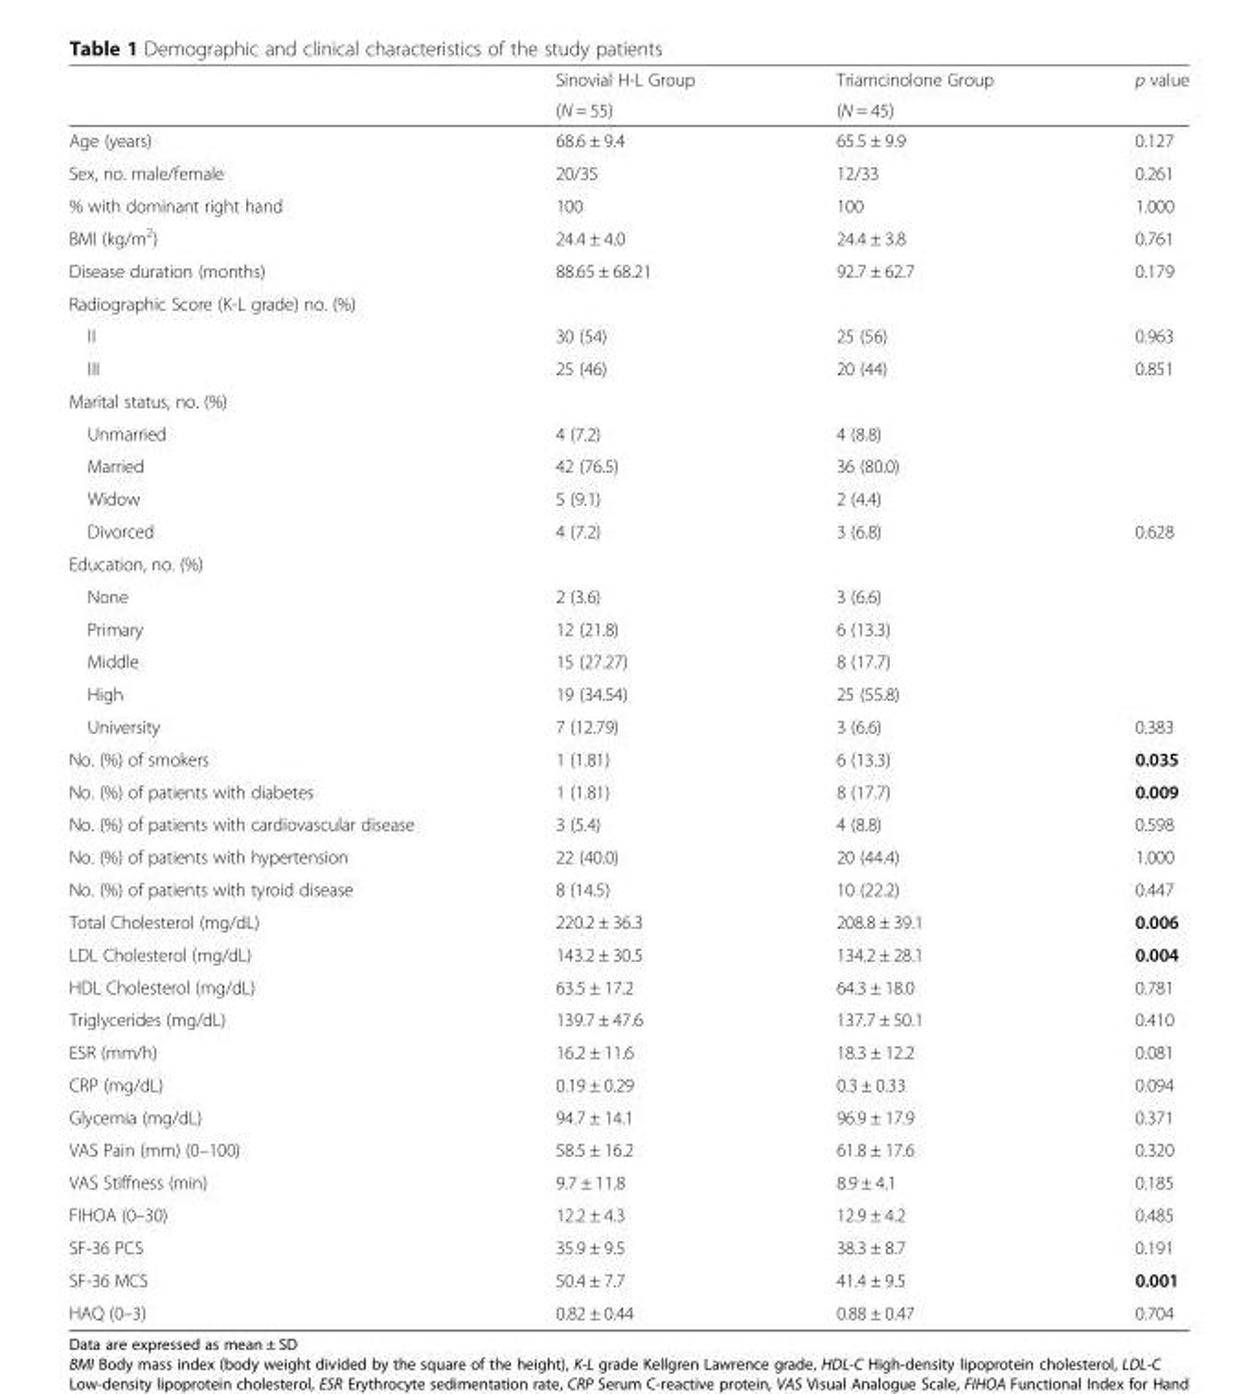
<table><thead><tr><td rowspan="2"></td><td rowspan="2">Sinovial H-L Group (N = 55)</td><td rowspan="2">Triamcinolone Group (N = 45)</td><td rowspan="2">p value</td></tr><tr></tr></thead><tbody><tr><td>Age (years)</td><td>68.6 ± 9.4</td><td>65.5 ± 9.9</td><td>0.127</td></tr><tr><td>Sex, no. male/female</td><td>20/35</td><td>12/33</td><td>0.261</td></tr><tr><td>% with dominant right hand</td><td>100</td><td>100</td><td>1.000</td></tr><tr><td>BMI (kg/m<sup>2</sup>)</td><td>24.4 ± 4.0</td><td>24.4 ± 3.8</td><td>0.761</td></tr><tr><td>Disease duration (months)</td><td>88.65 ± 68.21</td><td>92.7 ± 62.7</td><td>0.179</td></tr><tr><td colspan="4">Radiographic Score (K-L grade) no. (%)</td></tr><tr><td>II</td><td>30 (54)</td><td>25 (56)</td><td>0.963</td></tr><tr><td>III</td><td>25 (46)</td><td>20 (44)</td><td>0.851</td></tr><tr><td colspan="4">Marital status, no. (%)</td></tr><tr><td>Unmarried</td><td>4 (7.2)</td><td>4 (8.8)</td><td></td></tr><tr><td>Married</td><td>42 (76.5)</td><td>36 (80.0)</td><td></td></tr><tr><td>Widow</td><td>5 (9.1)</td><td>2 (4.4)</td><td></td></tr><tr><td>Divorced</td><td>4 (7.2)</td><td>3 (6.8)</td><td>0.628</td></tr><tr><td colspan="4">Education, no. (%)</td></tr><tr><td>None</td><td>2 (3.6)</td><td>3 (6.6)</td><td></td></tr><tr><td>Primary</td><td>12 (21.8)</td><td>6 (13.3)</td><td></td></tr><tr><td>Middle</td><td>15 (27.27)</td><td>8 (17.7)</td><td></td></tr><tr><td>High</td><td>19 (34.54)</td><td>25 (55.8)</td><td></td></tr><tr><td>University</td><td>7 (12.79)</td><td>3 (6.6)</td><td>0.383</td></tr><tr><td>No. (%) of smokers</td><td>1 (1.81)</td><td>6 (13.3)</td><td>0.035</td></tr><tr><td>No. (%) of patients with diabetes</td><td>1 (1.81)</td><td>8 (17.7)</td><td>0.009</td></tr><tr><td>No. (%) of patients with cardiovascular disease</td><td>3 (5.4)</td><td>4 (8.8)</td><td>0.598</td></tr><tr><td>No. (%) of patients with hypertension</td><td>22 (40.0)</td><td>20 (44.4)</td><td>1.000</td></tr><tr><td>No. (%) of patients with tyroid disease</td><td>8 (14.5)</td><td>10 (22.2)</td><td>0.447</td></tr><tr><td>Total Cholesterol (mg/dL)</td><td>220.2 ± 36.3</td><td>208.8 ± 39.1</td><td>0.006</td></tr><tr><td>LDL Cholesterol (mg/dL)</td><td>143.2 ± 30.5</td><td>134.2 ± 28.1</td><td>0.004</td></tr><tr><td>HDL Cholesterol (mg/dL)</td><td>63.5 ± 17.2</td><td>64.3 ± 18.0</td><td>0.781</td></tr><tr><td>Triglycerides (mg/dL)</td><td>139.7 ± 47.6</td><td>137.7 ± 50.1</td><td>0.410</td></tr><tr><td>ESR (mm/h)</td><td>16.2 ± 11.6</td><td>18.3 ± 12.2</td><td>0.081</td></tr><tr><td>CRP (mg/dL)</td><td>0.19 ± 0.29</td><td>0.3 ± 0.33</td><td>0.094</td></tr><tr><td>Glycemia (mg/dL)</td><td>94.7 ± 14.1</td><td>96.9 ± 17.9</td><td>0.371</td></tr><tr><td>VAS Pain (mm) (0–100)</td><td>58.5 ± 16.2</td><td>61.8 ± 17.6</td><td>0.320</td></tr><tr><td>VAS Stiffness (min)</td><td>9.7 ± 11.8</td><td>8.9 ± 4.1</td><td>0.185</td></tr><tr><td>FIHOA (0–30)</td><td>12.2 ± 4.3</td><td>12.9 ± 4.2</td><td>0.485</td></tr><tr><td>SF-36 PCS</td><td>35.9 ± 9.5</td><td>38.3 ± 8.7</td><td>0.191</td></tr><tr><td>SF-36 MCS</td><td>50.4 ± 7.7</td><td>41.4 ± 9.5</td><td>0.001</td></tr><tr><td>HAQ (0–3)</td><td>0.82 ± 0.44</td><td>0.88 ± 0.47</td><td>0.704</td></tr></tbody></table>